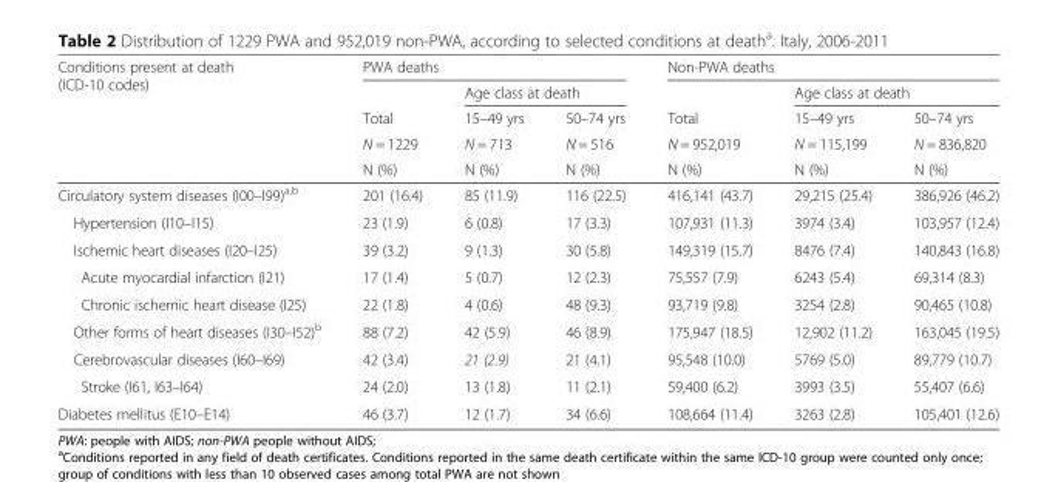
<table><thead><tr><td rowspan="5">Conditions present at death (ICD-10 codes)</td><td colspan="3">PWA deaths</td><td colspan="3">Non-PWA deaths</td></tr><tr><td rowspan="4">Total N = 1229 N (%)</td><td colspan="2">Age class at death</td><td rowspan="4">Total N = 952,019 N (%)</td><td colspan="2">Age class at death</td></tr><tr><td rowspan="3">15–49 yrs N = 713 N (%)</td><td rowspan="3">50–74 yrs N = 516 N (%)</td><td rowspan="3">15–49 yrs N = 115,199 N (%)</td><td rowspan="3">50–74 yrs N = 836,820 N (%)</td></tr><tr></tr><tr></tr></thead><tbody><tr><td>Circulatory system diseases (I00–I99)<sup>a,b</sup></td><td>201 (16.4)</td><td>85 (11.9)</td><td>116 (22.5)</td><td>416,141 (43.7)</td><td>29,215 (25.4)</td><td>386,926 (46.2)</td></tr><tr><td>Hypertension (I10–I15)</td><td>23 (1.9)</td><td>6 (0.8)</td><td>17 (3.3)</td><td>107,931 (11.3)</td><td>3974 (3.4)</td><td>103,957 (12.4)</td></tr><tr><td>Ischemic heart diseases (I20–I25)</td><td>39 (3.2)</td><td>9 (1.3)</td><td>30 (5.8)</td><td>149,319 (15.7)</td><td>8476 (7.4)</td><td>140,843 (16.8)</td></tr><tr><td>Acute myocardial infarction (I21)</td><td>17 (1.4)</td><td>5 (0.7)</td><td>12 (2.3)</td><td>75,557 (7.9)</td><td>6243 (5.4)</td><td>69,314 (8.3)</td></tr><tr><td>Chronic ischemic heart disease (I25)</td><td>22 (1.8)</td><td>4 (0.6)</td><td>48 (9.3)</td><td>93,719 (9.8)</td><td>3254 (2.8)</td><td>90,465 (10.8)</td></tr><tr><td>Other forms of heart diseases (I30–I52)<sup>b</sup></td><td>88 (7.2)</td><td>42 (5.9)</td><td>46 (8.9)</td><td>175,947 (18.5)</td><td>12,902 (11.2)</td><td>163,045 (19.5)</td></tr><tr><td>Cerebrovascular diseases (I60–I69)</td><td>42 (3.4)</td><td>21 (2.9)</td><td>21 (4.1)</td><td>95,548 (10.0)</td><td>5769 (5.0)</td><td>89,779 (10.7)</td></tr><tr><td>Stroke (I61, I63–I64)</td><td>24 (2.0)</td><td>13 (1.8)</td><td>11 (2.1)</td><td>59,400 (6.2)</td><td>3993 (3.5)</td><td>55,407 (6.6)</td></tr><tr><td>Diabetes mellitus (E10–E14)</td><td>46 (3.7)</td><td>12 (1.7)</td><td>34 (6.6)</td><td>108,664 (11.4)</td><td>3263 (2.8)</td><td>105,401 (12.6)</td></tr></tbody></table>